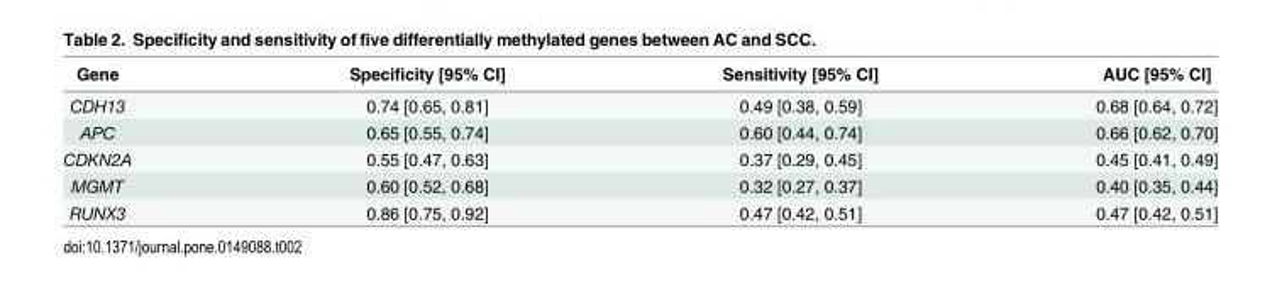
<table><thead><tr><td>Gene</td><td>Specificity [95% CI]</td><td>Sensitivity [95% CI]</td><td>AUC [95% CI]</td></tr></thead><tbody><tr><td>CDH13</td><td>0.74 [0.65, 0.81]</td><td>0.49 [0.38, 0.59]</td><td>0.68 [0.64, 0.72]</td></tr><tr><td>APC</td><td>0.65 [0.55, 0.74]</td><td>0.60 [0.44, 0.74]</td><td>0.66 [0.62, 0.70]</td></tr><tr><td>CDKN2A</td><td>0.55 [0.47, 0.63]</td><td>0.37 [0.29, 0.45]</td><td>0.45 [0.41, 0.49]</td></tr><tr><td>MGMT</td><td>0.60 [0.52, 0.68]</td><td>0.32 [0.27, 0.37]</td><td>0.40 [0.35, 0.44]</td></tr><tr><td>RUNX3</td><td>0.86 [0.75, 0.92]</td><td>0.47 [0.42, 0.51]</td><td>0.47 [0.42, 0.51]</td></tr></tbody></table>